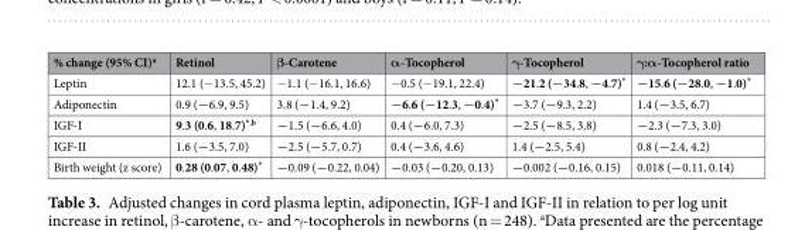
<table><thead><tr><td>% change (95% CI)<sup>a</sup></td><td>Retinol</td><td>β-Carotene</td><td>α-Tocopherol</td><td>γ-Tocopherol</td><td>γ:α-Tocopherol ratio</td></tr></thead><tbody><tr><td>Leptin</td><td>12.1 (−13.5, 45.2)</td><td>−1.1 (−16.1, 16.6)</td><td>−0.5 (−19.1, 22.4)</td><td>−21.2 (−34.8, −4.7)*</td><td>−15.6 (−28.0, −1.0)*</td></tr><tr><td>Adiponectin</td><td>0.9 (−6.9, 9.5)</td><td>3.8 (−1.4, 9.2)</td><td>−6.6 (−12.3, −0.4)*</td><td>−3.7 (−9.3, 2.2)</td><td>1.4 (−3.5, 6.7)</td></tr><tr><td>IGF-I</td><td>9.3 (0.6, 18.7)<sup>*,b</sup></td><td>−1.5 (−6.6, 4.0)</td><td>0.4 (−6.0, 7.3)</td><td>−2.5 (−8.5, 3.8)</td><td>−2.3 (−7.3, 3.0)</td></tr><tr><td>IGF-II</td><td>1.6 (−3.5, 7.0)</td><td>−2.5 (−5.7, 0.7)</td><td>0.4 (−3.6, 4.6)</td><td>1.4 (−2.5, 5.4)</td><td>0.8 (−2.4, 4.2)</td></tr><tr><td>Birth weight (z score)</td><td>0.28 (0.07, 0.48)*</td><td>−0.09 (−0.22, 0.04)</td><td>−0.03 (−0.20, 0.13)</td><td>−0.002 (−0.16, 0.15)</td><td>0.018 (−0.11, 0.14)</td></tr></tbody></table>